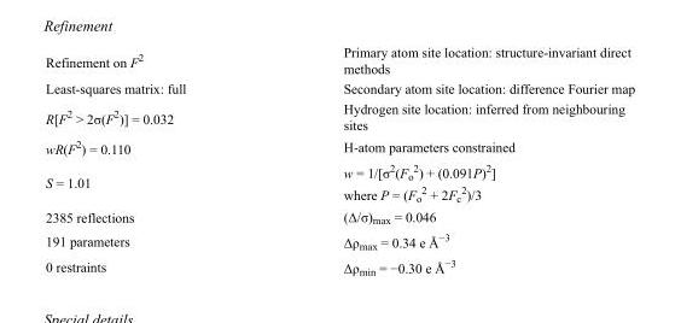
<table><tbody><tr><td>Refinement on F<sup>2</sup></td><td>Primary atom site location: structure-invariant direct methods</td></tr><tr><td>Least-squares matrix: full</td><td>Secondary atom site location: difference Fourier map</td></tr><tr><td>R[F<sup>2</sup> &gt; 2σ(F<sup>2</sup>)] = 0.032</td><td>Hydrogen site location: inferred from neighbouring sites</td></tr><tr><td>wR(F<sup>2</sup>) = 0.110</td><td>H-atom parameters constrained</td></tr><tr><td>S = 1.01</td><td>w = 1/[σ<sup>2</sup>(F<sub>o</sub> <sup>2</sup>) + (0.091P)<sup>2</sup>] where P = (F<sub>o</sub> <sup>2</sup> + 2F<sub>c</sub> <sup>2</sup>)/3</td></tr><tr><td>2385 reflections</td><td>(Δ/σ)<sub>max</sub> = 0.046</td></tr><tr><td>191 parameters</td><td>Δρ<sub>max</sub> = 0.34 e Å<sup>−3</sup></td></tr><tr><td>0 restraints</td><td>Δρ<sub>min</sub> = −0.30 e Å<sup>−3</sup></td></tr></tbody></table>